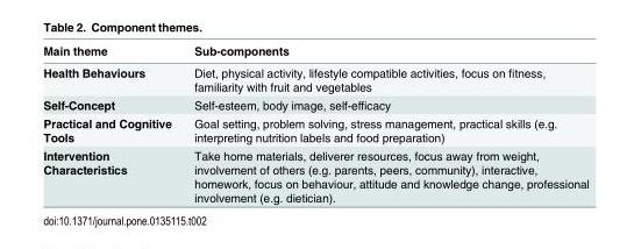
<table><thead><tr><td>Main theme</td><td>Sub-components</td></tr></thead><tbody><tr><td>Health Behaviours</td><td>Diet, physical activity, lifestyle compatible activities, focus on fitness, familiarity with fruit and vegetables</td></tr><tr><td>Self-Concept</td><td>Self-esteem, body image, self-efficacy</td></tr><tr><td>Practical and Cognitive Tools</td><td>Goal setting, problem solving, stress management, practical skills (e.g. interpreting nutrition labels and food preparation)</td></tr><tr><td>Intervention Characteristics</td><td>Take home materials, deliverer resources, focus away from weight, involvement of others (e.g. parents, peers, community), interactive, homework, focus on behaviour, attitude and knowledge change, professional involvement (e.g. dietician).</td></tr></tbody></table>